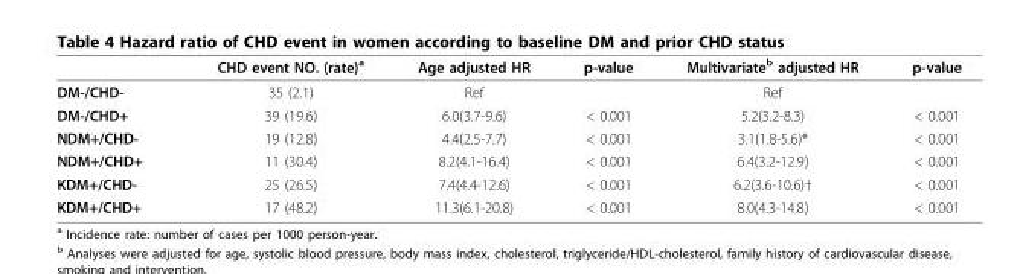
<table><thead><tr><td></td><td>CHD event NO. (rate)<sup>a</sup></td><td>Age adjusted HR</td><td>p-value</td><td>Multivariate<sup>b</sup> adjusted HR</td><td>p-value</td></tr></thead><tbody><tr><td>DM-/CHD-</td><td>35 (2.1)</td><td>Ref</td><td></td><td>Ref</td><td></td></tr><tr><td>DM-/CHD+</td><td>39 (19.6)</td><td>6.0(3.7-9.6)</td><td>&lt; 0.001</td><td>5.2(3.2-8.3)</td><td>&lt; 0.001</td></tr><tr><td>NDM+/CHD-</td><td>19 (12.8)</td><td>4.4(2.5-7.7)</td><td>&lt; 0.001</td><td>3.1(1.8-5.6)*</td><td>&lt; 0.001</td></tr><tr><td>NDM+/CHD+</td><td>11 (30.4)</td><td>8.2(4.1-16.4)</td><td>&lt; 0.001</td><td>6.4(3.2-12.9)</td><td>&lt; 0.001</td></tr><tr><td>KDM+/CHD-</td><td>25 (26.5)</td><td>7.4(4.4-12.6)</td><td>&lt; 0.001</td><td>6.2(3.6-10.6)†</td><td>&lt; 0.001</td></tr><tr><td>KDM+/CHD+</td><td>17 (48.2)</td><td>11.3(6.1-20.8)</td><td>&lt; 0.001</td><td>8.0(4.3-14.8)</td><td>&lt; 0.001</td></tr></tbody></table>